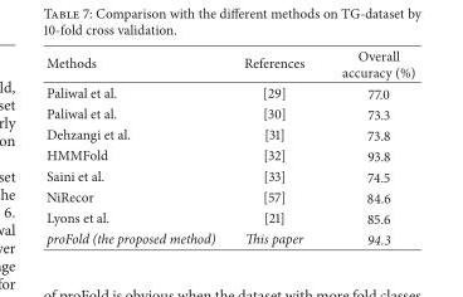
<table><thead><tr><td>Methods</td><td>References</td><td>Overall accuracy (%)</td></tr></thead><tbody><tr><td>Paliwal et al.</td><td>[29]</td><td>77.0</td></tr><tr><td>Paliwal et al.</td><td>[30]</td><td>73.3</td></tr><tr><td>Dehzangi et al.</td><td>[31]</td><td>73.8</td></tr><tr><td>HMMFold</td><td>[32]</td><td>93.8</td></tr><tr><td>Saini et al.</td><td>[33]</td><td>74.5</td></tr><tr><td>NiRecor</td><td>[57]</td><td>84.6</td></tr><tr><td>Lyons et al.</td><td>[21]</td><td>85.6</td></tr><tr><td>proFold (the proposed method)</td><td>This paper</td><td>94.3</td></tr></tbody></table>